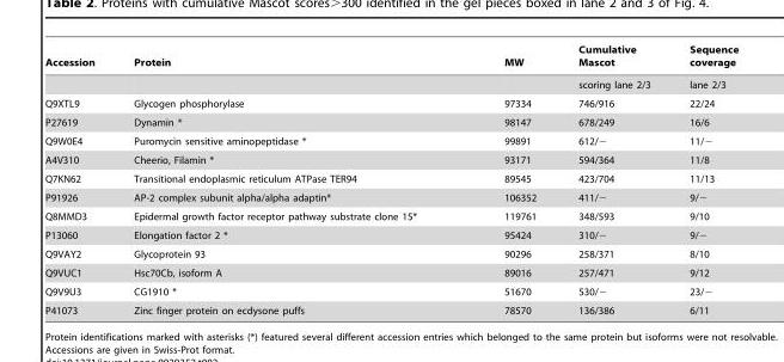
<table><thead><tr><td>Accession</td><td>Protein</td><td>MW</td><td>Cumulative Mascot</td><td>Sequence coverage</td></tr></thead><tbody><tr><td></td><td></td><td></td><td>scoring lane 2/3</td><td>lane 2/3</td></tr><tr><td>Q9XTL9</td><td>Glycogen phosphorylase</td><td>97334</td><td>746/916</td><td>22/24</td></tr><tr><td>P27619</td><td>Dynamin *</td><td>98147</td><td>678/249</td><td>16/6</td></tr><tr><td>Q9W0E4</td><td>Puromycin sensitive aminopeptidase *</td><td>99891</td><td>612/−</td><td>11/−</td></tr><tr><td>A4V310</td><td>Cheerio, Filamin *</td><td>93171</td><td>594/364</td><td>11/8</td></tr><tr><td>Q7KN62</td><td>Transitional endoplasmic reticulum ATPase TER94</td><td>89545</td><td>423/704</td><td>11/13</td></tr><tr><td>P91926</td><td>AP-2 complex subunit alpha/alpha adaptin*</td><td>106352</td><td>411/−</td><td>9/−</td></tr><tr><td>Q8MMD3</td><td>Epidermal growth factor receptor pathway substrate clone 15*</td><td>119761</td><td>348/593</td><td>9/10</td></tr><tr><td>P13060</td><td>Elongation factor 2 *</td><td>95424</td><td>310/−</td><td>9/−</td></tr><tr><td>Q9VAY2</td><td>Glycoprotein 93</td><td>90296</td><td>258/371</td><td>8/10</td></tr><tr><td>Q9VUC1</td><td>Hsc70Cb, isoform A</td><td>89016</td><td>257/471</td><td>9/12</td></tr><tr><td>Q9V9U3</td><td>CG1910 *</td><td>51670</td><td>530/−</td><td>23/−</td></tr><tr><td>P41073</td><td>Zinc finger protein on ecdysone puffs</td><td>78570</td><td>136/386</td><td>6/11</td></tr></tbody></table>